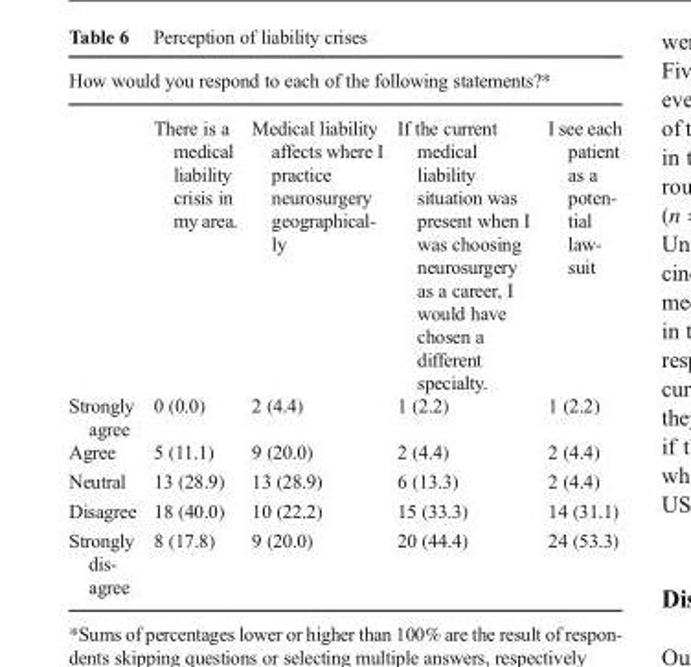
<table><thead><tr><td colspan="5">How would you respond to each of the following statements?*</td></tr><tr><td></td><td>There is a medical liability crisis in my area.</td><td>Medical liability affects where I practice neurosurgery geographical- ly</td><td>If the current medical liability situation was present when I was choosing neurosurgery as a career, I would have chosen a different specialty.</td><td>I see each patient as a poten- tial law- suit</td></tr></thead><tbody><tr><td>Strongly agree</td><td>0 (0.0)</td><td>2 (4.4)</td><td>1 (2.2)</td><td>1 (2.2)</td></tr><tr><td>Agree</td><td>5 (11.1)</td><td>9 (20.0)</td><td>2 (4.4)</td><td>2 (4.4)</td></tr><tr><td>Neutral</td><td>13 (28.9)</td><td>13 (28.9)</td><td>6 (13.3)</td><td>2 (4.4)</td></tr><tr><td>Disagree</td><td>18 (40.0)</td><td>10 (22.2)</td><td>15 (33.3)</td><td>14 (31.1)</td></tr><tr><td>Strongly dis- agree</td><td>8 (17.8)</td><td>9 (20.0)</td><td>20 (44.4)</td><td>24 (53.3)</td></tr></tbody></table>